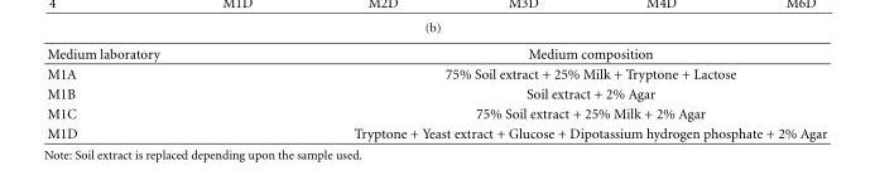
<table><thead><tr><td>Medium laboratory</td><td>Medium composition</td></tr></thead><tbody><tr><td>M1A</td><td>75% Soil extract + 25% Milk + Tryptone + Lactose</td></tr><tr><td>M1B</td><td>Soil extract + 2% Agar</td></tr><tr><td>M1C</td><td>75% Soil extract + 25% Milk + 2% Agar</td></tr><tr><td>M1D</td><td>Tryptone + Yeast extract + Glucose + Dipotassium hydrogen phosphate + 2% Agar</td></tr></tbody></table>